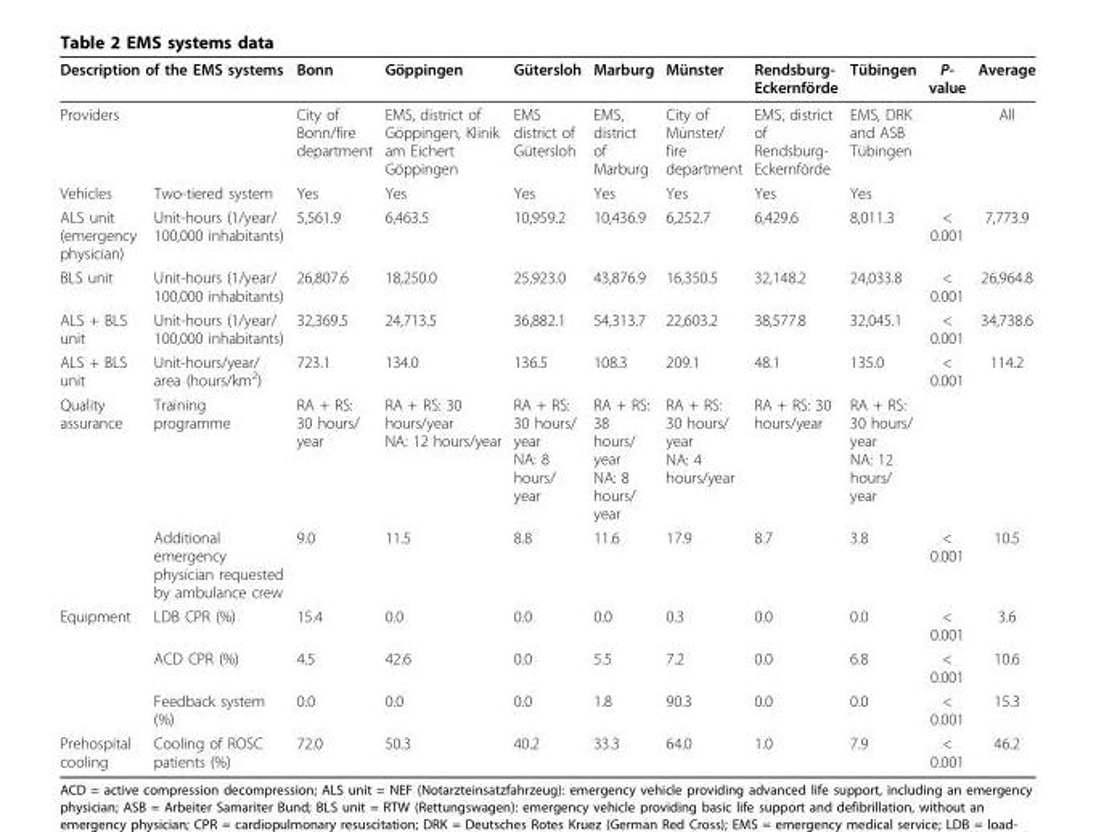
<table><thead><tr><td rowspan="2" colspan="2">Description of the EMS systems Providers</td><td rowspan="3">Bonn City of Bonn/fire department Yes</td><td rowspan="3">Göppingen EMS, district of Göppingen, Klinik am Eichert Göppingen Yes</td><td rowspan="3">Gütersloh EMS district of Gütersloh Yes</td><td rowspan="3">Marburg EMS, district of Marburg Yes</td><td rowspan="3">Münster City of Münster/ fire department Yes</td><td rowspan="3">Rendsburg- Eckernförde EMS, district of Rendsburg- Eckernförde Yes</td><td rowspan="3">Tübingen EMS, DRK and ASB Tübingen Yes</td><td rowspan="3">P- value</td><td rowspan="3">Average All</td></tr><tr></tr><tr><td>Vehicles</td><td>Two-tiered system</td></tr></thead><tbody><tr><td>ALS unit (emergency physician)</td><td>Unit-hours (1/year/ 100,000 inhabitants)</td><td>5,561.9</td><td>6,463.5</td><td>10,959.2</td><td>10,436.9</td><td>6,252.7</td><td>6,429.6</td><td>8,011.3</td><td>&lt; 0.001</td><td>7,773.9</td></tr><tr><td>BLS unit</td><td>Unit-hours (1/year/ 100,000 inhabitants)</td><td>26,807.6</td><td>18,250.0</td><td>25,923.0</td><td>43,876.9</td><td>16,350.5</td><td>32,148.2</td><td>24,033.8</td><td>&lt; 0.001</td><td>26,964.8</td></tr><tr><td>ALS + BLS unit</td><td>Unit-hours (1/year/ 100,000 inhabitants)</td><td>32,369.5</td><td>24,713.5</td><td>36,882.1</td><td>54,313.7</td><td>22,603.2</td><td>38,577.8</td><td>32,045.1</td><td>&lt; 0.001</td><td>34,738.6</td></tr><tr><td>ALS + BLS unit</td><td>Unit-hours/year/ area (hours/km<sup>2</sup>)</td><td>723.1</td><td>134.0</td><td>136.5</td><td>108.3</td><td>209.1</td><td>48.1</td><td>135.0</td><td>&lt; 0.001</td><td>114.2</td></tr><tr><td rowspan="2">Quality assurance</td><td>Training programme</td><td>RA + RS: 30 hours/ year</td><td>RA + RS: 30 hours/year NA: 12 hours/year</td><td>RA + RS: 30 hours/ year NA: 8 hours/ year</td><td>RA + RS: 38 hours/ year NA: 8 hours/ year</td><td>RA + RS: 30 hours/ year NA: 4 hours/year</td><td>RA + RS: 30 hours/year</td><td>RA + RS: 30 hours/ year NA: 12 hours/ year</td><td></td><td></td></tr><tr><td>Additional emergency physician requested by ambulance crew</td><td>9.0</td><td>11.5</td><td>8.8</td><td>11.6</td><td>17.9</td><td>8.7</td><td>3.8</td><td>&lt; 0.001</td><td>10.5</td></tr><tr><td rowspan="3">Equipment</td><td>LDB CPR (%)</td><td>15.4</td><td>0.0</td><td>0.0</td><td>0.0</td><td>0.3</td><td>0.0</td><td>0.0</td><td>&lt; 0.001</td><td>3.6</td></tr><tr><td>ACD CPR (%)</td><td>4.5</td><td>42.6</td><td>0.0</td><td>5.5</td><td>7.2</td><td>0.0</td><td>6.8</td><td>&lt; 0.001</td><td>10.6</td></tr><tr><td>Feedback system (%)</td><td>0.0</td><td>0.0</td><td>0.0</td><td>1.8</td><td>90.3</td><td>0.0</td><td>0.0</td><td>&lt; 0.001</td><td>15.3</td></tr><tr><td>Prehospital cooling</td><td>Cooling of ROSC patients (%)</td><td>72.0</td><td>50.3</td><td>40.2</td><td>33.3</td><td>64.0</td><td>1.0</td><td>7.9</td><td>&lt; 0.001</td><td>46.2</td></tr></tbody></table>